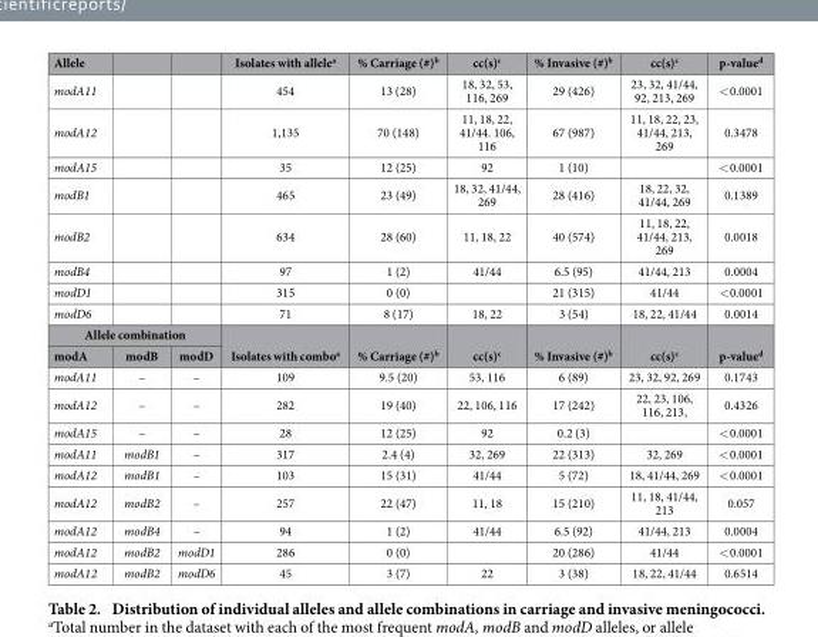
<table><thead><tr><td>Allele</td><td></td><td></td><td>Isolates with allele<sup>a</sup></td><td>% Carriage (#)<sup>b</sup></td><td>cc(s)<sup>c</sup></td><td>% Invasive (#)<sup>b</sup></td><td>cc(s)<sup>c</sup></td><td>p-value<sup>d</sup></td></tr></thead><tbody><tr><td>modA11</td><td></td><td></td><td>454</td><td>13 (28)</td><td>18, 32, 53, 116, 269</td><td>29 (426)</td><td>23, 32, 41/44, 92, 213, 269</td><td>&lt; 0.0001</td></tr><tr><td>modA12</td><td></td><td></td><td>1,135</td><td>70 (148)</td><td>11, 18, 22, 41/44. 106, 116</td><td>67 (987)</td><td>11, 18, 22, 23, 41/44, 213, 269</td><td>0.3478</td></tr><tr><td>modA15</td><td></td><td></td><td>35</td><td>12 (25)</td><td>92</td><td>1 (10)</td><td></td><td>&lt; 0.0001</td></tr><tr><td>modB1</td><td></td><td></td><td>465</td><td>23 (49)</td><td>18, 32, 41/44, 269</td><td>28 (416)</td><td>18, 22, 32, 41/44, 269</td><td>0.1389</td></tr><tr><td>modB2</td><td></td><td></td><td>634</td><td>28 (60)</td><td>11, 18, 22</td><td>40 (574)</td><td>11, 18, 22, 41/44, 213, 269</td><td>0.0018</td></tr><tr><td>modB4</td><td></td><td></td><td>97</td><td>1 (2)</td><td>41/44</td><td>6.5 (95)</td><td>41/44, 213</td><td>0.0004</td></tr><tr><td>modD1</td><td></td><td></td><td>315</td><td>0 (0)</td><td></td><td>21 (315)</td><td>41/44</td><td>&lt; 0.0001</td></tr><tr><td>modD6</td><td></td><td></td><td>71</td><td>8 (17)</td><td>18, 22</td><td>3 (54)</td><td>18, 22, 41/44</td><td>0.0014</td></tr><tr><td colspan="3">Allele combination</td><td rowspan="2">Isolates with combo<sup>a</sup></td><td rowspan="2">% Carriage (#)<sup>b</sup></td><td rowspan="2">cc(s)<sup>c</sup></td><td rowspan="2">% Invasive (#)<sup>b</sup></td><td rowspan="2">cc(s)<sup>c</sup></td><td rowspan="2">p-value<sup>d</sup></td></tr><tr><td>modA</td><td>modB</td><td>modD</td></tr><tr><td>modA11</td><td>–</td><td>–</td><td>109</td><td>9.5 (20)</td><td>53, 116</td><td>6 (89)</td><td>23, 32, 92, 269</td><td>0.1743</td></tr><tr><td>modA12</td><td>–</td><td>–</td><td>282</td><td>19 (40)</td><td>22, 106, 116</td><td>17 (242)</td><td>22, 23, 106, 116, 213,</td><td>0.4326</td></tr><tr><td>modA15</td><td>–</td><td>–</td><td>28</td><td>12 (25)</td><td>92</td><td>0.2 (3)</td><td></td><td>&lt; 0.0001</td></tr><tr><td>modA11</td><td>modB1</td><td>–</td><td>317</td><td>2.4 (4)</td><td>32, 269</td><td>22 (313)</td><td>32, 269</td><td>&lt; 0.0001</td></tr><tr><td>modA12</td><td>modB1</td><td>–</td><td>103</td><td>15 (31)</td><td>41/44</td><td>5 (72)</td><td>18, 41/44, 269</td><td>&lt; 0.0001</td></tr><tr><td>modA12</td><td>modB2</td><td>–</td><td>257</td><td>22 (47)</td><td>11, 18</td><td>15 (210)</td><td>11, 18, 41/44, 213</td><td>0.057</td></tr><tr><td>modA12</td><td>modB4</td><td>–</td><td>94</td><td>1 (2)</td><td>41/44</td><td>6.5 (92)</td><td>41/44, 213</td><td>0.0004</td></tr><tr><td>modA12</td><td>modB2</td><td>modD1</td><td>286</td><td>0 (0)</td><td></td><td>20 (286)</td><td>41/44</td><td>&lt; 0.0001</td></tr><tr><td>modA12</td><td>modB2</td><td>modD6</td><td>45</td><td>3 (7)</td><td>22</td><td>3 (38)</td><td>18, 22, 41/44</td><td>0.6514</td></tr></tbody></table>